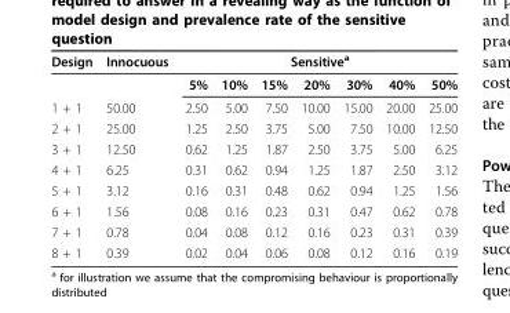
<table><thead><tr><td rowspan="2">Design</td><td rowspan="2">Innocuous</td><td colspan="7">Sensitive<sup>a</sup></td></tr><tr><td>5%</td><td>10%</td><td>15%</td><td>20%</td><td>30%</td><td>40%</td><td>50%</td></tr></thead><tbody><tr><td>1 + 1</td><td>50.00</td><td>2.50</td><td>5.00</td><td>7.50</td><td>10.00</td><td>15.00</td><td>20.00</td><td>25.00</td></tr><tr><td>2 + 1</td><td>25.00</td><td>1.25</td><td>2.50</td><td>3.75</td><td>5.00</td><td>7.50</td><td>10.00</td><td>12.50</td></tr><tr><td>3 + 1</td><td>12.50</td><td>0.62</td><td>1.25</td><td>1.87</td><td>2.50</td><td>3.75</td><td>5.00</td><td>6.25</td></tr><tr><td>4 + 1</td><td>6.25</td><td>0.31</td><td>0.62</td><td>0.94</td><td>1.25</td><td>1.87</td><td>2.50</td><td>3.12</td></tr><tr><td>5 + 1</td><td>3.12</td><td>0.16</td><td>0.31</td><td>0.48</td><td>0.62</td><td>0.94</td><td>1.25</td><td>1.56</td></tr><tr><td>6 + 1</td><td>1.56</td><td>0.08</td><td>0.16</td><td>0.23</td><td>0.31</td><td>0.47</td><td>0.62</td><td>0.78</td></tr><tr><td>7 + 1</td><td>0.78</td><td>0.04</td><td>0.08</td><td>0.12</td><td>0.16</td><td>0.23</td><td>0.31</td><td>0.39</td></tr><tr><td>8 + 1</td><td>0.39</td><td>0.02</td><td>0.04</td><td>0.06</td><td>0.08</td><td>0.12</td><td>0.16</td><td>0.19</td></tr></tbody></table>